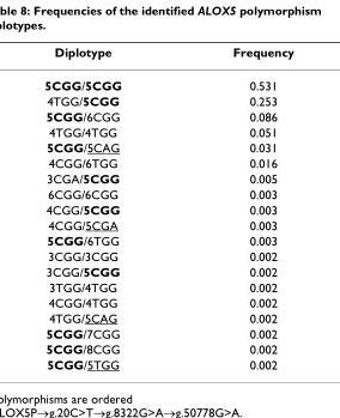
<table><thead><tr><td>Diplotype</td><td>Frequency</td></tr></thead><tbody><tr><td>5CGG/5CGG</td><td>0.531</td></tr><tr><td>4TGG/5CGG</td><td>0.253</td></tr><tr><td>5CGG/6CGG</td><td>0.086</td></tr><tr><td>4TGG/4TGG</td><td>0.051</td></tr><tr><td>5CGG/5CAG</td><td>0.031</td></tr><tr><td>4CGG/6TGG</td><td>0.016</td></tr><tr><td>3CGA/5CGG</td><td>0.005</td></tr><tr><td>6CGG/6CGG</td><td>0.003</td></tr><tr><td>4CGG/5CGG</td><td>0.003</td></tr><tr><td>4CGG/5CGA</td><td>0.003</td></tr><tr><td>5CGG/6TGG</td><td>0.003</td></tr><tr><td>3CGG/3CGG</td><td>0.002</td></tr><tr><td>3CGG/5CGG</td><td>0.002</td></tr><tr><td>3TGG/4TGG</td><td>0.002</td></tr><tr><td>4CGG/4TGG</td><td>0.002</td></tr><tr><td>4TGG/5CAG</td><td>0.002</td></tr><tr><td>5CGG/7CGG</td><td>0.002</td></tr><tr><td>5CGG/8CGG</td><td>0.002</td></tr><tr><td>5CGG/5TGG</td><td>0.002</td></tr></tbody></table>